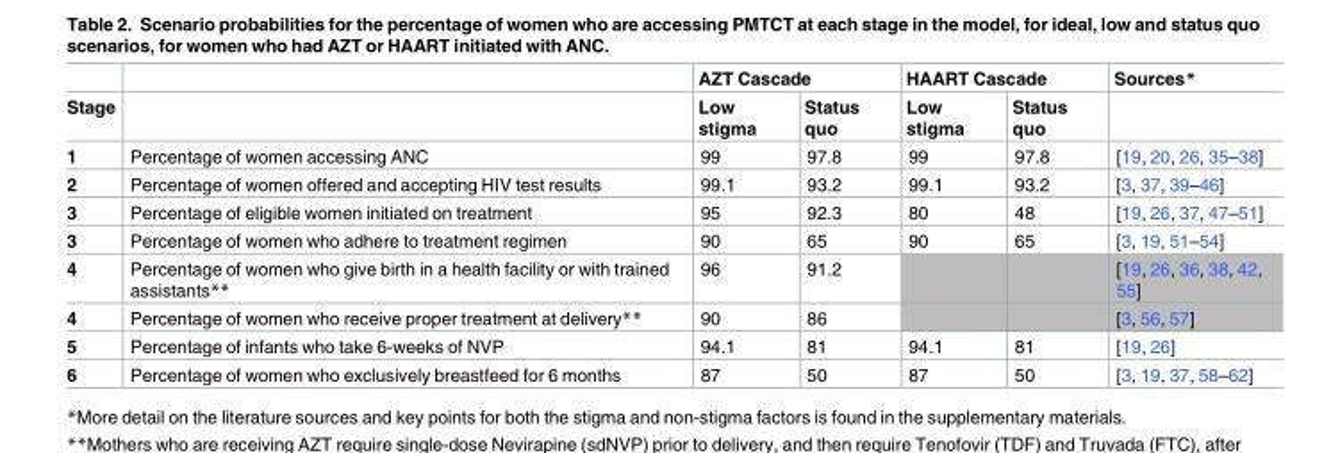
<table><thead><tr><td rowspan="2">Stage</td><td rowspan="2"></td><td colspan="2">AZT Cascade</td><td colspan="2">HAART Cascade</td><td rowspan="2">Sources*</td></tr><tr><td>Low stigma</td><td>Status quo</td><td>Low stigma</td><td>Status quo</td></tr></thead><tbody><tr><td>1</td><td>Percentage of women accessing ANC</td><td>99</td><td>97.8</td><td>99</td><td>97.8</td><td>[19, 20, 26, 35–38]</td></tr><tr><td>2</td><td>Percentage of women offered and accepting HIV test results</td><td>99.1</td><td>93.2</td><td>99.1</td><td>93.2</td><td>[3, 37, 39–46]</td></tr><tr><td>3</td><td>Percentage of eligible women initiated on treatment</td><td>95</td><td>92.3</td><td>80</td><td>48</td><td>[19, 26, 37, 47–51]</td></tr><tr><td>3</td><td>Percentage of women who adhere to treatment regimen</td><td>90</td><td>65</td><td>90</td><td>65</td><td>[3, 19, 51–54]</td></tr><tr><td>4</td><td>Percentage of women who give birth in a health facility or with trained assistants**</td><td>96</td><td>91.2</td><td></td><td></td><td>[19, 26, 36, 38, 42, 55]</td></tr><tr><td>4</td><td>Percentage of women who receive proper treatment at delivery**</td><td>90</td><td>86</td><td></td><td></td><td>[3, 56, 57]</td></tr><tr><td>5</td><td>Percentage of infants who take 6-weeks of NVP</td><td>94.1</td><td>81</td><td>94.1</td><td>81</td><td>[19, 26]</td></tr><tr><td>6</td><td>Percentage of women who exclusively breastfeed for 6 months</td><td>87</td><td>50</td><td>87</td><td>50</td><td>[3, 19, 37, 58–62]</td></tr></tbody></table>